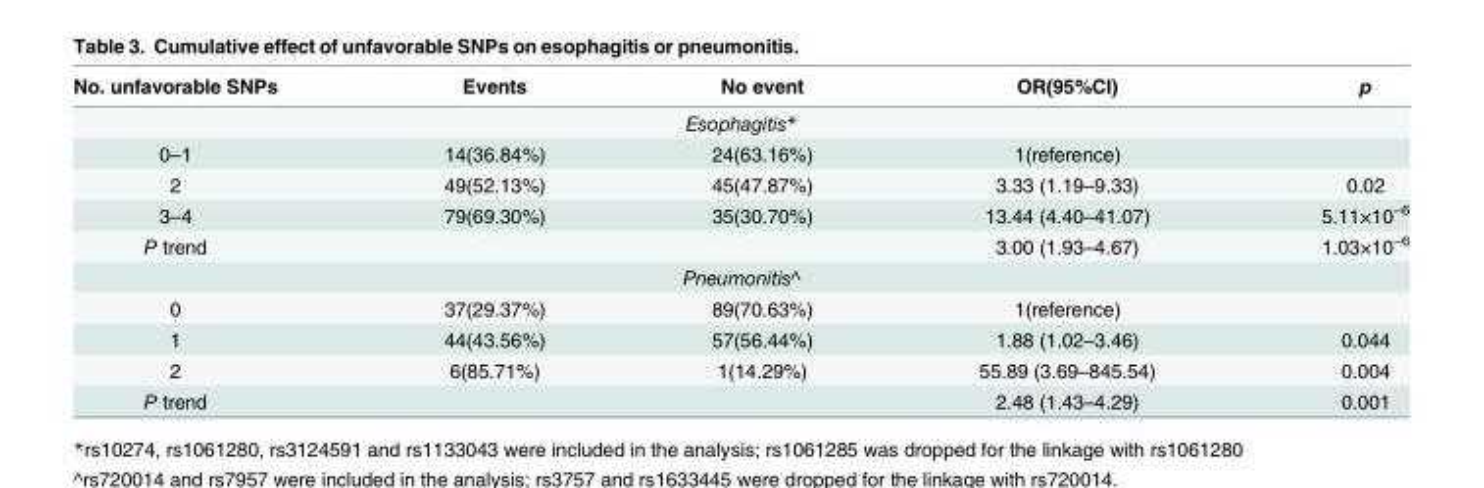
<table><thead><tr><td>No. unfavorable SNPs</td><td>Events</td><td>No event</td><td>OR(95%CI)</td><td>p</td></tr></thead><tbody><tr><td colspan="5">Esophagitis*</td></tr><tr><td>0–1</td><td>14(36.84%)</td><td>24(63.16%)</td><td>1(reference)</td><td></td></tr><tr><td>2</td><td>49(52.13%)</td><td>45(47.87%)</td><td>3.33 (1.19–9.33)</td><td>0.02</td></tr><tr><td>3–4</td><td>79(69.30%)</td><td>35(30.70%)</td><td>13.44 (4.40–41.07)</td><td>5.11×10<sup>−6</sup></td></tr><tr><td>P trend</td><td></td><td></td><td>3.00 (1.93–4.67)</td><td>1.03×10<sup>−6</sup></td></tr><tr><td colspan="5">Pneumonitis^</td></tr><tr><td>0</td><td>37(29.37%)</td><td>89(70.63%)</td><td>1(reference)</td><td></td></tr><tr><td>1</td><td>44(43.56%)</td><td>57(56.44%)</td><td>1.88 (1.02–3.46)</td><td>0.044</td></tr><tr><td>2</td><td>6(85.71%)</td><td>1(14.29%)</td><td>55.89 (3.69–845.54)</td><td>0.004</td></tr><tr><td>P trend</td><td></td><td></td><td>2.48 (1.43–4.29)</td><td>0.001</td></tr></tbody></table>